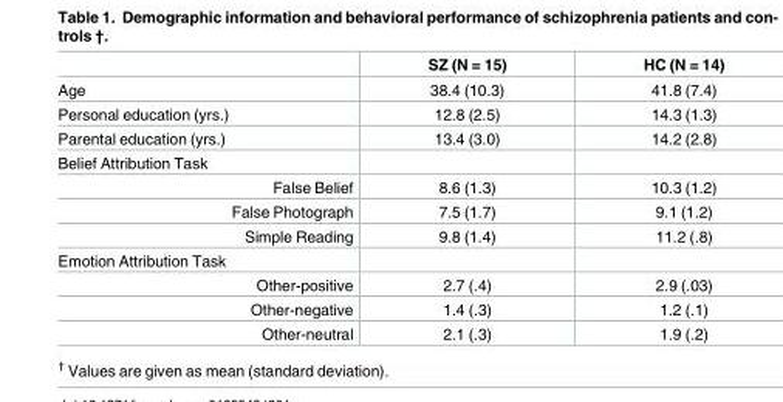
<table><thead><tr><td></td><td>SZ (N = 15)</td><td>HC (N = 14)</td></tr></thead><tbody><tr><td>Age</td><td>38.4 (10.3)</td><td>41.8 (7.4)</td></tr><tr><td>Personal education (yrs.)</td><td>12.8 (2.5)</td><td>14.3 (1.3)</td></tr><tr><td>Parental education (yrs.)</td><td>13.4 (3.0)</td><td>14.2 (2.8)</td></tr><tr><td colspan="3">Belief Attribution Task</td></tr><tr><td>False Belief</td><td>8.6 (1.3)</td><td>10.3 (1.2)</td></tr><tr><td>False Photograph</td><td>7.5 (1.7)</td><td>9.1 (1.2)</td></tr><tr><td>Simple Reading</td><td>9.8 (1.4)</td><td>11.2 (.8)</td></tr><tr><td colspan="3">Emotion Attribution Task</td></tr><tr><td>Other-positive</td><td>2.7 (.4)</td><td>2.9 (.03)</td></tr><tr><td>Other-negative</td><td>1.4 (.3)</td><td>1.2 (.1)</td></tr><tr><td>Other-neutral</td><td>2.1 (.3)</td><td>1.9 (.2)</td></tr></tbody></table>